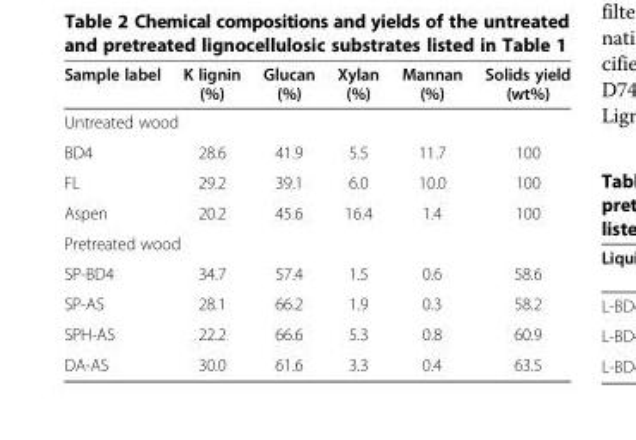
<table><thead><tr><td>Sample label</td><td>K lignin (%)</td><td>Glucan (%)</td><td>Xylan (%)</td><td>Mannan (%)</td><td>Solids yield (wt%)</td></tr></thead><tbody><tr><td colspan="6">Untreated wood</td></tr><tr><td>BD4</td><td>28.6</td><td>41.9</td><td>5.5</td><td>11.7</td><td>100</td></tr><tr><td>FL</td><td>29.2</td><td>39.1</td><td>6.0</td><td>10.0</td><td>100</td></tr><tr><td>Aspen</td><td>20.2</td><td>45.6</td><td>16.4</td><td>1.4</td><td>100</td></tr><tr><td colspan="6">Pretreated wood</td></tr><tr><td>SP-BD4</td><td>34.7</td><td>57.4</td><td>1.5</td><td>0.6</td><td>58.6</td></tr><tr><td>SP-AS</td><td>28.1</td><td>66.2</td><td>1.9</td><td>0.3</td><td>58.2</td></tr><tr><td>SPH-AS</td><td>22.2</td><td>66.6</td><td>5.3</td><td>0.8</td><td>60.9</td></tr><tr><td>DA-AS</td><td>30.0</td><td>61.6</td><td>3.3</td><td>0.4</td><td>63.5</td></tr></tbody></table>